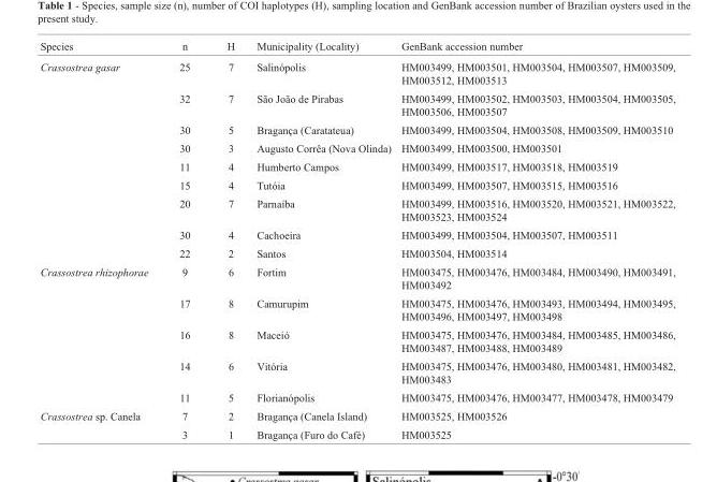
<table><thead><tr><td>Species</td><td>n</td><td>H</td><td>Municipality (Locality)</td><td>GenBank accession number</td></tr></thead><tbody><tr><td rowspan="9">Crassostrea gasar</td><td>25</td><td>7</td><td>Salinópolis</td><td>HM003499, HM003501, HM003504, HM003507, HM003509, HM003512, HM003513</td></tr><tr><td>32</td><td>7</td><td>São João de Pirabas</td><td>HM003499, HM003502, HM003503, HM003504, HM003505, HM003506, HM003507</td></tr><tr><td>30</td><td>5</td><td>Bragança (Caratateua)</td><td>HM003499, HM003504, HM003508, HM003509, HM003510</td></tr><tr><td>30</td><td>3</td><td>Augusto Corrêa (Nova Olinda)</td><td>HM003499, HM003500, HM003501</td></tr><tr><td>11</td><td>4</td><td>Humberto Campos</td><td>HM003499, HM003517, HM003518, HM003519</td></tr><tr><td>15</td><td>4</td><td>Tutóia</td><td>HM003499, HM003507, HM003515, HM003516</td></tr><tr><td>20</td><td>7</td><td>Parnaíba</td><td>HM003499, HM003516, HM003520, HM003521, HM003522, HM003523, HM003524</td></tr><tr><td>30</td><td>4</td><td>Cachoeira</td><td>HM003499, HM003504, HM003507, HM003511</td></tr><tr><td>22</td><td>2</td><td>Santos</td><td>HM003504, HM003514</td></tr><tr><td rowspan="5">Crassostrea rhizophorae</td><td>9</td><td>6</td><td>Fortim</td><td>HM003475, HM003476, HM003484, HM003490, HM003491, HM003492</td></tr><tr><td>17</td><td>8</td><td>Camurupim</td><td>HM003475, HM003476, HM003493, HM003494, HM003495, HM003496, HM003497, HM003498</td></tr><tr><td>16</td><td>8</td><td>Maceió</td><td>HM003475, HM003476, HM003484, HM003485, HM003486, HM003487, HM003488, HM003489</td></tr><tr><td>14</td><td>6</td><td>Vitória</td><td>HM003475, HM003476, HM003480, HM003481, HM003482, HM003483</td></tr><tr><td>11</td><td>5</td><td>Florianópolis</td><td>HM003475, HM003476, HM003477, HM003478, HM003479</td></tr><tr><td rowspan="2">Crassostrea sp. Canela</td><td>7</td><td>2</td><td>Bragança (Canela Island)</td><td>HM003525, HM003526</td></tr><tr><td>3</td><td>1</td><td>Bragança (Furo do Café)</td><td>HM003525</td></tr></tbody></table>